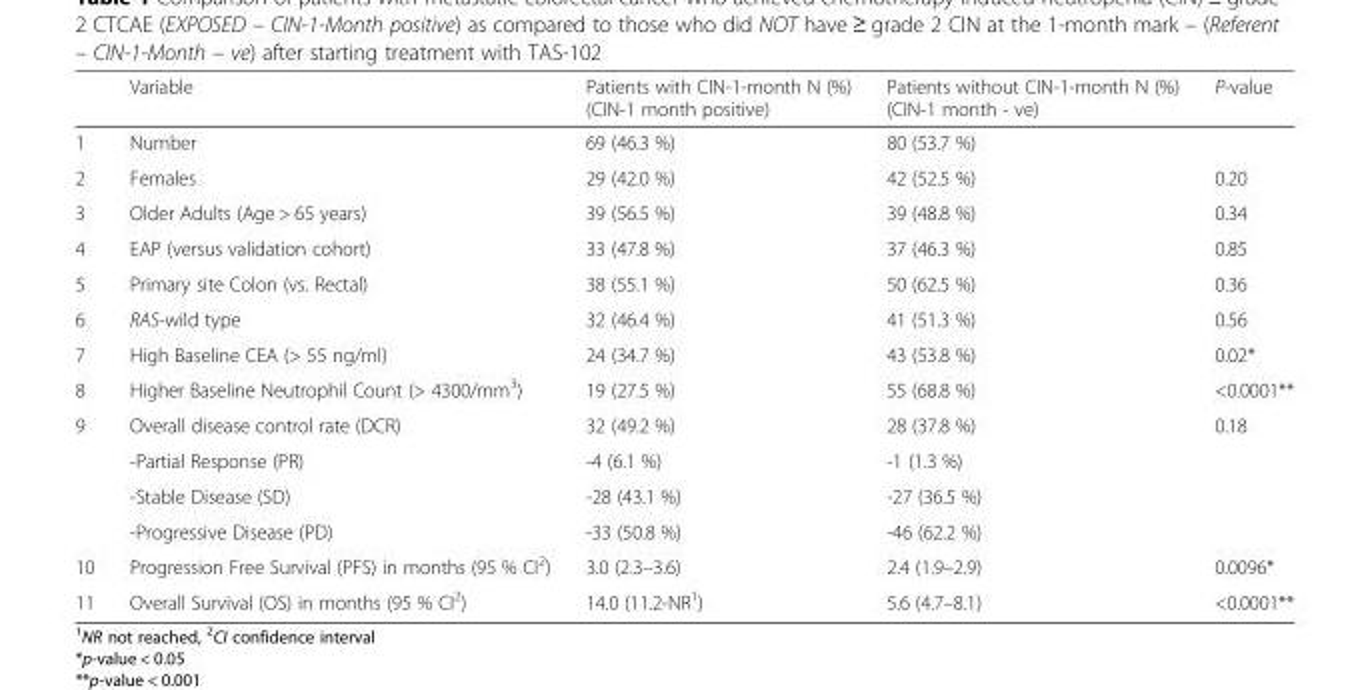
<table><thead><tr><td></td><td>Variable</td><td>Patients with CIN-1-month N (%) (CIN-1 month positive)</td><td>Patients without CIN-1-month N (%) (CIN-1 month - ve)</td><td>P-value</td></tr></thead><tbody><tr><td>1</td><td>Number</td><td>69 (46.3 %)</td><td>80 (53.7 %)</td><td></td></tr><tr><td>2</td><td>Females</td><td>29 (42.0 %)</td><td>42 (52.5 %)</td><td>0.20</td></tr><tr><td>3</td><td>Older Adults (Age &gt; 65 years)</td><td>39 (56.5 %)</td><td>39 (48.8 %)</td><td>0.34</td></tr><tr><td>4</td><td>EAP (versus validation cohort)</td><td>33 (47.8 %)</td><td>37 (46.3 %)</td><td>0.85</td></tr><tr><td>5</td><td>Primary site Colon (vs. Rectal)</td><td>38 (55.1 %)</td><td>50 (62.5 %)</td><td>0.36</td></tr><tr><td>6</td><td>RAS-wild type</td><td>32 (46.4 %)</td><td>41 (51.3 %)</td><td>0.56</td></tr><tr><td>7</td><td>High Baseline CEA (&gt; 55 ng/ml)</td><td>24 (34.7 %)</td><td>43 (53.8 %)</td><td>0.02*</td></tr><tr><td>8</td><td>Higher Baseline Neutrophil Count (&gt; 4300/mm<sup>3</sup>)</td><td>19 (27.5 %)</td><td>55 (68.8 %)</td><td>&lt;0.0001**</td></tr><tr><td rowspan="4">9</td><td>Overall disease control rate (DCR)</td><td>32 (49.2 %)</td><td>28 (37.8 %)</td><td rowspan="4">0.18</td></tr><tr><td>-Partial Response (PR)</td><td>-4 (6.1 %)</td><td>-1 (1.3 %)</td></tr><tr><td>-Stable Disease (SD)</td><td>-28 (43.1 %)</td><td>-27 (36.5 %)</td></tr><tr><td>-Progressive Disease (PD)</td><td>-33 (50.8 %)</td><td>-46 (62.2 %)</td></tr><tr><td>10</td><td>Progression Free Survival (PFS) in months (95 % CI<sup>2</sup>)</td><td>3.0 (2.3–3.6)</td><td>2.4 (1.9–2.9)</td><td>0.0096*</td></tr><tr><td>11</td><td>Overall Survival (OS) in months (95 % CI<sup>2</sup>)</td><td>14.0 (11.2-NR<sup>1</sup>)</td><td>5.6 (4.7–8.1)</td><td>&lt;0.0001**</td></tr></tbody></table>